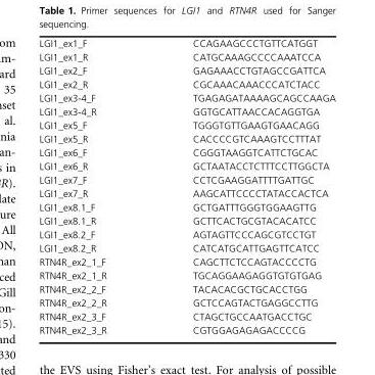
<table><tbody><tr><td>LGI1_ex1_F</td><td>CCAGAAGCCCTGTTCATGGT</td></tr><tr><td>LGI1_ex1_R</td><td>CATGCAAAGCCCCAAATCCA</td></tr><tr><td>LGI1_ex2_F</td><td>GAGAAACCTGTAGCCGATTCA</td></tr><tr><td>LGI1_ex2_R</td><td>CGCAAACAAACCCATCTACC</td></tr><tr><td>LGI1_ex3-4_F</td><td>TGAGAGATAAAAGCAGCCAAGA</td></tr><tr><td>LGI1_ex3-4_R</td><td>GGTGCATTAACCACAGGTGA</td></tr><tr><td>LGI1_ex5_F</td><td>TGGGTGTTGAAGTGAACAGG</td></tr><tr><td>LGI1_ex5_R</td><td>CACCCCGTCAAAGTCCTTTAT</td></tr><tr><td>LGI1_ex6_F</td><td>CGGGTAAGGTCATTCTGCAC</td></tr><tr><td>LGI1_ex6_R</td><td>GCTAATACCTCTTTCCTTGGCTA</td></tr><tr><td>LGI1_ex7_F</td><td>CCTCGAAGGATTTTGATTGC</td></tr><tr><td>LGI1_ex7_R</td><td>AAGCATTCCCCTATACCACTCA</td></tr><tr><td>LGI1_ex8.1_F</td><td>GCTGATTTGGGTGGAAGTTG</td></tr><tr><td>LGI1_ex8.1_R</td><td>GCTTCACTGCGTACACATCC</td></tr><tr><td>LGI1_ex8.2_F</td><td>AGTAGTTCCCAGCGTCCTGT</td></tr><tr><td>LGI1_ex8.2_R</td><td>CATCATGCATTGAGTTCATCC</td></tr><tr><td>RTN4R_ex2_1_F</td><td>CAGCTTCTCCAGTACCCCTG</td></tr><tr><td>RTN4R_ex2_1_R</td><td>TGCAGGAAGAGGTGTGTGAG</td></tr><tr><td>RTN4R_ex2_2_F</td><td>TACACACGCTGCACCTGG</td></tr><tr><td>RTN4R_ex2_2_R</td><td>GCTCCAGTACTGAGGCCTTG</td></tr><tr><td>RTN4R_ex2_3_F</td><td>CTAGCTGCCAATGACCTGC</td></tr><tr><td>RTN4R_ex2_3_R</td><td>CGTGGAGAGAGACCCCG</td></tr></tbody></table>